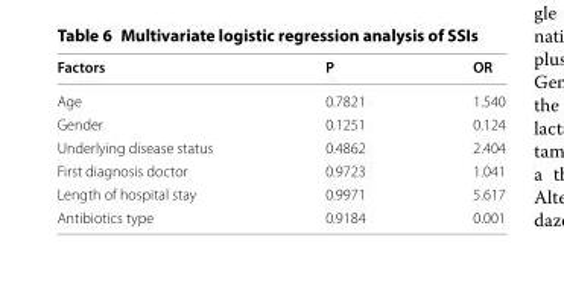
<table><thead><tr><td>Factors</td><td>P</td><td>OR</td></tr></thead><tbody><tr><td>Age</td><td>0.7821</td><td>1.540</td></tr><tr><td>Gender</td><td>0.1251</td><td>0.124</td></tr><tr><td>Underlying disease status</td><td>0.4862</td><td>2.404</td></tr><tr><td>First diagnosis doctor</td><td>0.9723</td><td>1.041</td></tr><tr><td>Length of hospital stay</td><td>0.9971</td><td>5.617</td></tr><tr><td>Antibiotics type</td><td>0.9184</td><td>0.001</td></tr></tbody></table>